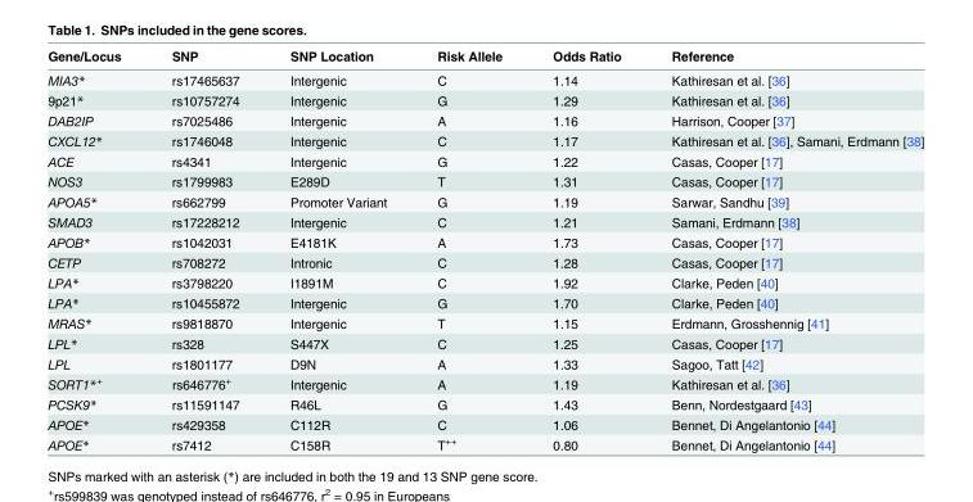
<table><thead><tr><td>Gene/Locus</td><td>SNP</td><td>SNP Location</td><td>Risk Allele</td><td>Odds Ratio</td><td>Reference</td></tr></thead><tbody><tr><td>MIA3*</td><td>rs17465637</td><td>Intergenic</td><td>C</td><td>1.14</td><td>Kathiresan et al. [36]</td></tr><tr><td>9p21*</td><td>rs10757274</td><td>Intergenic</td><td>G</td><td>1.29</td><td>Kathiresan et al. [36]</td></tr><tr><td>DAB2IP</td><td>rs7025486</td><td>Intergenic</td><td>A</td><td>1.16</td><td>Harrison, Cooper [37]</td></tr><tr><td>CXCL12*</td><td>rs1746048</td><td>Intergenic</td><td>C</td><td>1.17</td><td>Kathiresan et al. [36], Samani, Erdmann [38]</td></tr><tr><td>ACE</td><td>rs4341</td><td>Intergenic</td><td>G</td><td>1.22</td><td>Casas, Cooper [17]</td></tr><tr><td>NOS3</td><td>rs1799983</td><td>E289D</td><td>T</td><td>1.31</td><td>Casas, Cooper [17]</td></tr><tr><td>APOA5*</td><td>rs662799</td><td>Promoter Variant</td><td>G</td><td>1.19</td><td>Sarwar, Sandhu [39]</td></tr><tr><td>SMAD3</td><td>rs17228212</td><td>Intergenic</td><td>C</td><td>1.21</td><td>Samani, Erdmann [38]</td></tr><tr><td>APOB*</td><td>rs1042031</td><td>E4181K</td><td>A</td><td>1.73</td><td>Casas, Cooper [17]</td></tr><tr><td>CETP</td><td>rs708272</td><td>Intronic</td><td>C</td><td>1.28</td><td>Casas, Cooper [17]</td></tr><tr><td>LPA*</td><td>rs3798220</td><td>I1891M</td><td>C</td><td>1.92</td><td>Clarke, Peden [40]</td></tr><tr><td>LPA*</td><td>rs10455872</td><td>Intergenic</td><td>G</td><td>1.70</td><td>Clarke, Peden [40]</td></tr><tr><td>MRAS*</td><td>rs9818870</td><td>Intergenic</td><td>T</td><td>1.15</td><td>Erdmann, Grosshennig [41]</td></tr><tr><td>LPL*</td><td>rs328</td><td>S447X</td><td>C</td><td>1.25</td><td>Casas, Cooper [17]</td></tr><tr><td>LPL</td><td>rs1801177</td><td>D9N</td><td>A</td><td>1.33</td><td>Sagoo, Tatt [42]</td></tr><tr><td>SORT1*<sup>+</sup></td><td>rs646776<sup>+</sup></td><td>Intergenic</td><td>A</td><td>1.19</td><td>Kathiresan et al. [36]</td></tr><tr><td>PCSK9*</td><td>rs11591147</td><td>R46L</td><td>G</td><td>1.43</td><td>Benn, Nordestgaard [43]</td></tr><tr><td>APOE*</td><td>rs429358</td><td>C112R</td><td>C</td><td>1.06</td><td>Bennet, Di Angelantonio [44]</td></tr><tr><td>APOE*</td><td>rs7412</td><td>C158R</td><td>T<sup>++</sup></td><td>0.80</td><td>Bennet, Di Angelantonio [44]</td></tr></tbody></table>